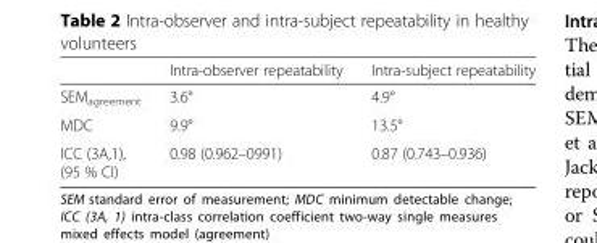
<table><thead><tr><td></td><td>Intra-observer repeatability</td><td>Intra-subject repeatability</td></tr></thead><tbody><tr><td>SEM<sub>agreement</sub></td><td>3.6°</td><td>4.9°</td></tr><tr><td>MDC</td><td>9.9°</td><td>13.5°</td></tr><tr><td>ICC (3A,1), (95 % CI)</td><td>0.98 (0.962–0991)</td><td>0.87 (0.743–0.936)</td></tr></tbody></table>